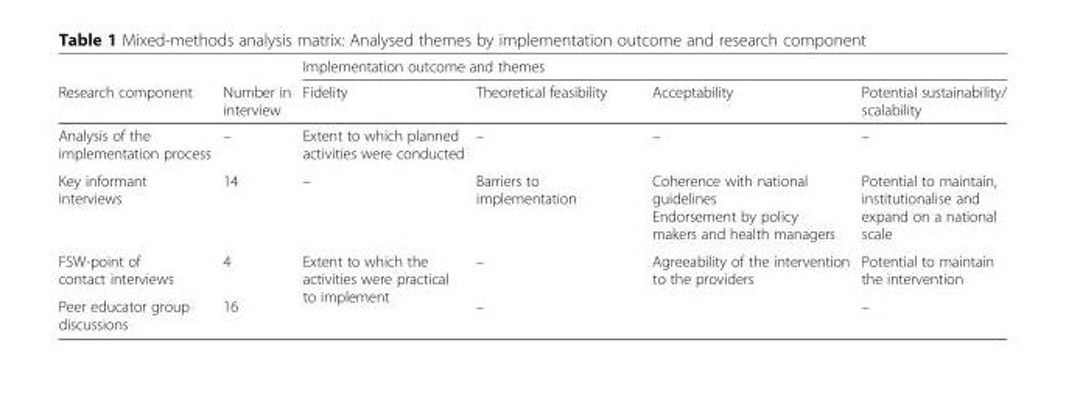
<table><thead><tr><td rowspan="2">Research component</td><td rowspan="2">Number in interview</td><td colspan="4">Implementation outcome and themes</td></tr><tr><td>Fidelity</td><td>Theoretical feasibility</td><td>Acceptability</td><td>Potential sustainability/ scalability</td></tr></thead><tbody><tr><td>Analysis of the implementation process</td><td>–</td><td>Extent to which planned activities were conducted</td><td>–</td><td>–</td><td>–</td></tr><tr><td>Key informant interviews</td><td>14</td><td>–</td><td>Barriers to implementation</td><td>Coherence with national guidelines Endorsement by policy makers and health managers</td><td>Potential to maintain, institutionalise and expand on a national scale</td></tr><tr><td>FSW-point of contact interviews</td><td>4</td><td rowspan="2">Extent to which the activities were practical to implement</td><td>–</td><td rowspan="2">Agreeability of the intervention to the providers</td><td>Potential to maintain the intervention</td></tr><tr><td>Peer educator group discussions</td><td>16</td><td>–</td><td>–</td></tr></tbody></table>